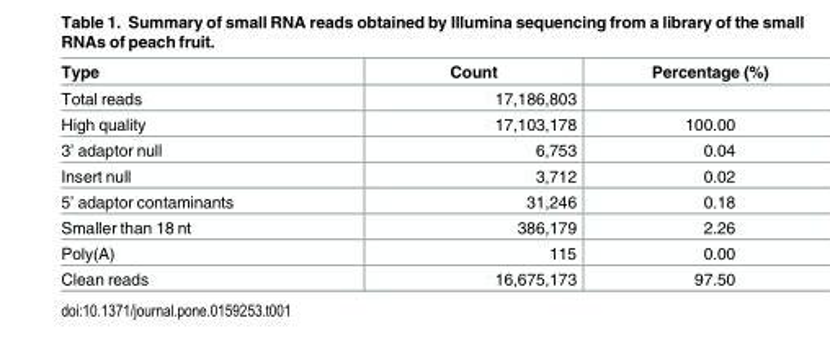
<table><thead><tr><td>Type</td><td>Count</td><td>Percentage (%)</td></tr></thead><tbody><tr><td>Total reads</td><td>17,186,803</td><td></td></tr><tr><td>High quality</td><td>17,103,178</td><td>100.00</td></tr><tr><td>3’ adaptor null</td><td>6,753</td><td>0.04</td></tr><tr><td>Insert null</td><td>3,712</td><td>0.02</td></tr><tr><td>5’ adaptor contaminants</td><td>31,246</td><td>0.18</td></tr><tr><td>Smaller than 18 nt</td><td>386,179</td><td>2.26</td></tr><tr><td>Poly(A)</td><td>115</td><td>0.00</td></tr><tr><td>Clean reads</td><td>16,675,173</td><td>97.50</td></tr></tbody></table>